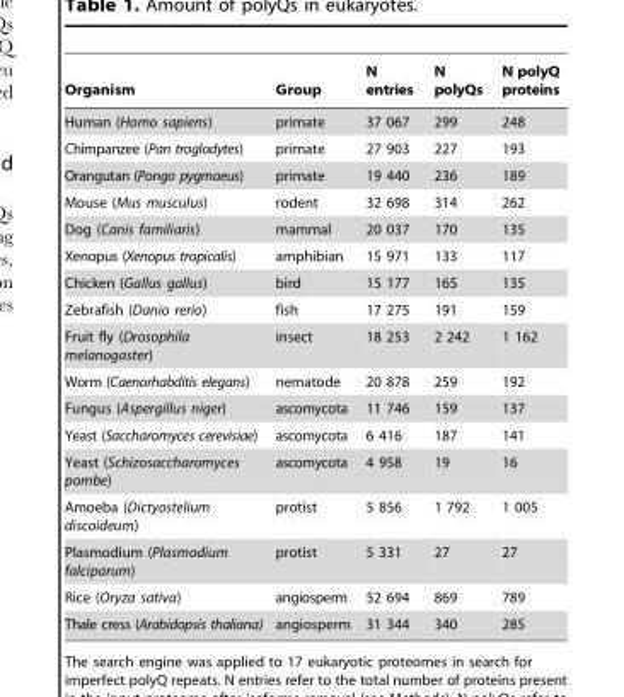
<table><thead><tr><td>Organism</td><td>Group</td><td>N entries</td><td>N polyQs</td><td>N polyQ proteins</td></tr></thead><tbody><tr><td>Human (Homo sapiens)</td><td>primate</td><td>37 067</td><td>299</td><td>248</td></tr><tr><td>Chimpanzee (Pan troglodytes)</td><td>primate</td><td>27 903</td><td>227</td><td>193</td></tr><tr><td>Orangutan (Pongo pygmaeus)</td><td>primate</td><td>19 440</td><td>236</td><td>189</td></tr><tr><td>Mouse (Mus musculus)</td><td>rodent</td><td>32 698</td><td>314</td><td>262</td></tr><tr><td>Dog (Canis familiaris)</td><td>mammal</td><td>20 037</td><td>170</td><td>135</td></tr><tr><td>Xenopus (Xenopus tropicalis)</td><td>amphibian</td><td>15 971</td><td>133</td><td>117</td></tr><tr><td>Chicken (Gallus gallus)</td><td>bird</td><td>15 177</td><td>165</td><td>135</td></tr><tr><td>Zebrafish (Danio rerio)</td><td>fish</td><td>17 275</td><td>191</td><td>159</td></tr><tr><td>Fruit fly (Drosophila melanogaster)</td><td>insect</td><td>18 253</td><td>2 242</td><td>1 162</td></tr><tr><td>Worm (Caenorhabditis elegans)</td><td>nematode</td><td>20 878</td><td>259</td><td>192</td></tr><tr><td>Fungus (Aspergillus niger)</td><td>ascomycota</td><td>11 746</td><td>159</td><td>137</td></tr><tr><td>Yeast (Saccharomyces cerevisiae)</td><td>ascomycota</td><td>6 416</td><td>187</td><td>141</td></tr><tr><td>Yeast (Schizosaccharomyces pombe)</td><td>ascomycota</td><td>4 958</td><td>19</td><td>16</td></tr><tr><td>Amoeba (Dictyostelium discoideum)</td><td>protist</td><td>5 856</td><td>1 792</td><td>1 005</td></tr><tr><td>Plasmodium (Plasmodium falciparum)</td><td>protist</td><td>5 331</td><td>27</td><td>27</td></tr><tr><td>Rice (Oryza sativa)</td><td>angiosperm</td><td>52 694</td><td>869</td><td>789</td></tr><tr><td>Thale cress (Arabidopsis thaliana)</td><td>angiosperm</td><td>31 344</td><td>340</td><td>285</td></tr></tbody></table>